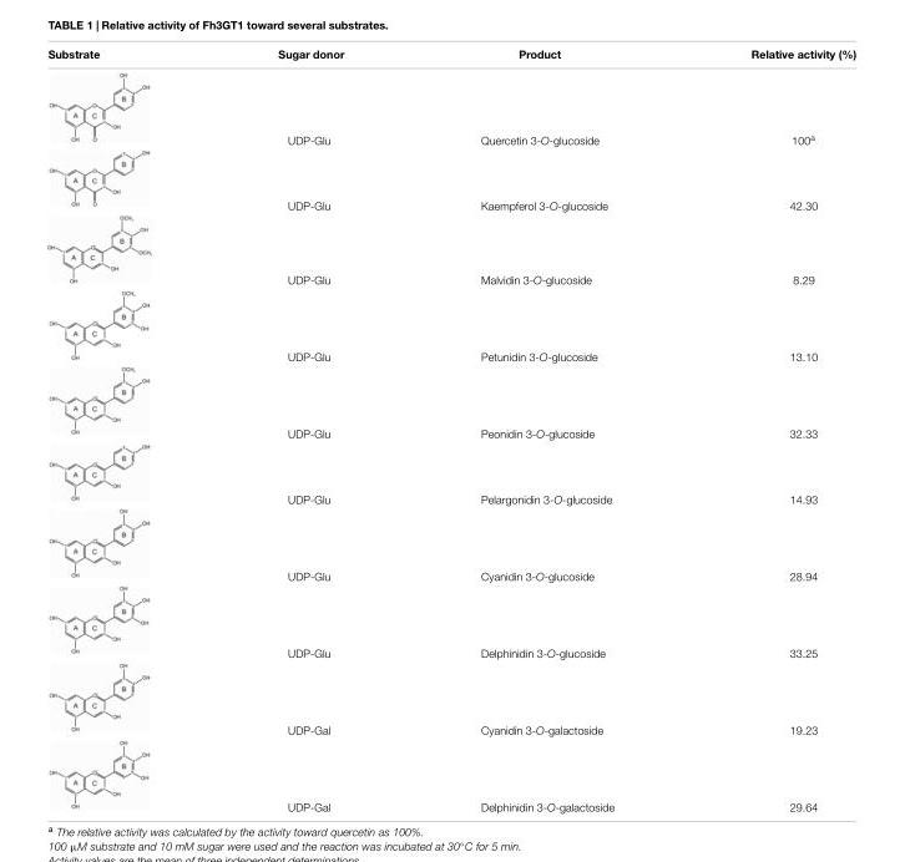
<table><thead><tr><td>Substrate</td><td>Sugar donor</td><td>Product</td><td>Relative activity (%)</td></tr></thead><tbody><tr><td></td><td>UDP-Glu</td><td>Quercetin 3-O-glucoside</td><td>100<sup>a</sup></td></tr><tr><td></td><td>UDP-Glu</td><td>Kaempferol 3-O-glucoside</td><td>42.30</td></tr><tr><td></td><td>UDP-Glu</td><td>Malvidin 3-O-glucoside</td><td>8.29</td></tr><tr><td></td><td>UDP-Glu</td><td>Petunidin 3-O-glucoside</td><td>13.10</td></tr><tr><td></td><td>UDP-Glu</td><td>Peonidin 3-O-glucoside</td><td>32.33</td></tr><tr><td></td><td>UDP-Glu</td><td>Pelargonidin 3-O-glucoside</td><td>14.93</td></tr><tr><td></td><td>UDP-Glu</td><td>Cyanidin 3-O-glucoside</td><td>28.94</td></tr><tr><td></td><td>UDP-Glu</td><td>Delphinidin 3-O-glucoside</td><td>33.25</td></tr><tr><td></td><td>UDP-Gal</td><td>Cyanidin 3-O-galactoside</td><td>19.23</td></tr><tr><td></td><td>UDP-Gal</td><td>Delphinidin 3-O-galactoside</td><td>29.64</td></tr></tbody></table>